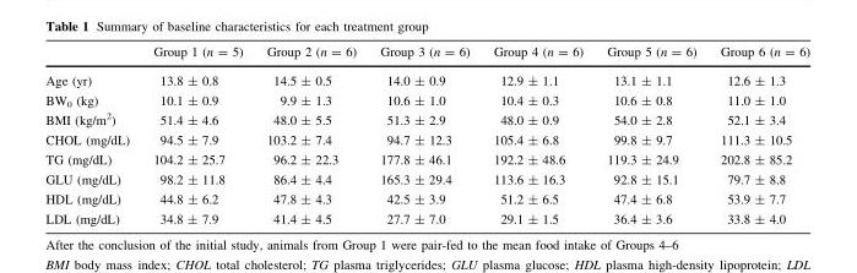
<table><thead><tr><td></td><td>Group 1 (n = 5)</td><td>Group 2 (n = 6)</td><td>Group 3 (n = 6)</td><td>Group 4 (n = 6)</td><td>Group 5 (n = 6)</td><td>Group 6 (n = 6)</td></tr></thead><tbody><tr><td>Age (yr)</td><td>13.8 ± 0.8</td><td>14.5 ± 0.5</td><td>14.0 ± 0.9</td><td>12.9 ± 1.1</td><td>13.1 ± 1.1</td><td>12.6 ± 1.3</td></tr><tr><td>BW<sub>0</sub> (kg)</td><td>10.1 ± 0.9</td><td>9.9 ± 1.3</td><td>10.6 ± 1.0</td><td>10.4 ± 0.3</td><td>10.6 ± 0.8</td><td>11.0 ± 1.0</td></tr><tr><td>BMI (kg/m<sup>2</sup>)</td><td>51.4 ± 4.6</td><td>48.0 ± 5.5</td><td>51.3 ± 2.9</td><td>48.0 ± 0.9</td><td>54.0 ± 2.8</td><td>52.1 ± 3.4</td></tr><tr><td>CHOL (mg/dL)</td><td>94.5 ± 7.9</td><td>103.2 ± 7.4</td><td>94.7 ± 12.3</td><td>105.4 ± 6.8</td><td>99.8 ± 9.7</td><td>111.3 ± 10.5</td></tr><tr><td>TG (mg/dL)</td><td>104.2 ± 25.7</td><td>96.2 ± 22.3</td><td>177.8 ± 46.1</td><td>192.2 ± 48.6</td><td>119.3 ± 24.9</td><td>202.8 ± 85.2</td></tr><tr><td>GLU (mg/dL)</td><td>98.2 ± 11.8</td><td>86.4 ± 4.4</td><td>165.3 ± 29.4</td><td>113.6 ± 16.3</td><td>92.8 ± 15.1</td><td>79.7 ± 8.8</td></tr><tr><td>HDL (mg/dL)</td><td>44.8 ± 6.2</td><td>47.8 ± 4.3</td><td>42.5 ± 3.9</td><td>51.2 ± 6.5</td><td>47.4 ± 6.8</td><td>53.9 ± 7.7</td></tr><tr><td>LDL (mg/dL)</td><td>34.8 ± 7.9</td><td>41.4 ± 4.5</td><td>27.7 ± 7.0</td><td>29.1 ± 1.5</td><td>36.4 ± 3.6</td><td>33.8 ± 4.0</td></tr></tbody></table>